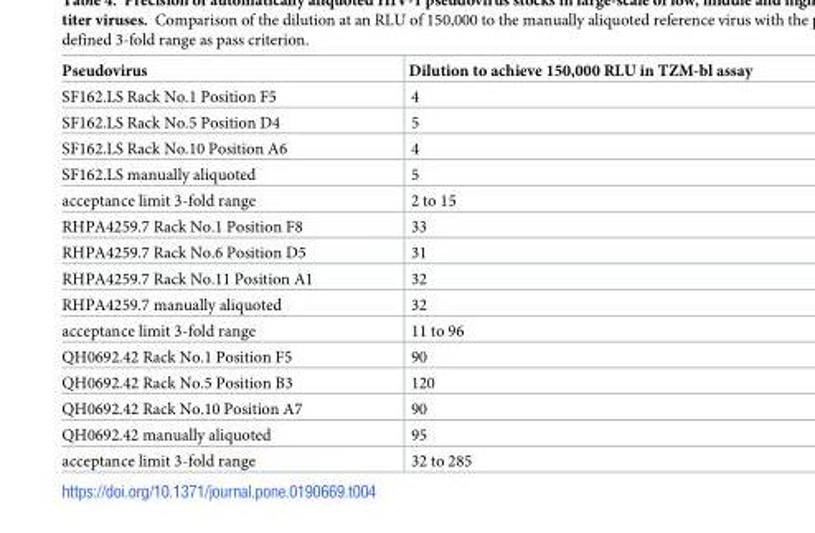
<table><thead><tr><td>Pseudovirus</td><td>Dilution to achieve 150,000 RLU in TZM-bl assay</td></tr></thead><tbody><tr><td>SF162.LS Rack No.1 Position F5</td><td>4</td></tr><tr><td>SF162.LS Rack No.5 Position D4</td><td>5</td></tr><tr><td>SF162.LS Rack No.10 Position A6</td><td>4</td></tr><tr><td>SF162.LS manually aliquoted</td><td>5</td></tr><tr><td>acceptance limit 3-fold range</td><td>2 to 15</td></tr><tr><td>RHPA4259.7 Rack No.1 Position F8</td><td>33</td></tr><tr><td>RHPA4259.7 Rack No.6 Position D5</td><td>31</td></tr><tr><td>RHPA4259.7 Rack No.11 Position A1</td><td>32</td></tr><tr><td>RHPA4259.7 manually aliquoted</td><td>32</td></tr><tr><td>acceptance limit 3-fold range</td><td>11 to 96</td></tr><tr><td>QH0692.42 Rack No.1 Position F5</td><td>90</td></tr><tr><td>QH0692.42 Rack No.5 Position B3</td><td>120</td></tr><tr><td>QH0692.42 Rack No.10 Position A7</td><td>90</td></tr><tr><td>QH0692.42 manually aliquoted</td><td>95</td></tr><tr><td>acceptance limit 3-fold range</td><td>32 to 285</td></tr></tbody></table>